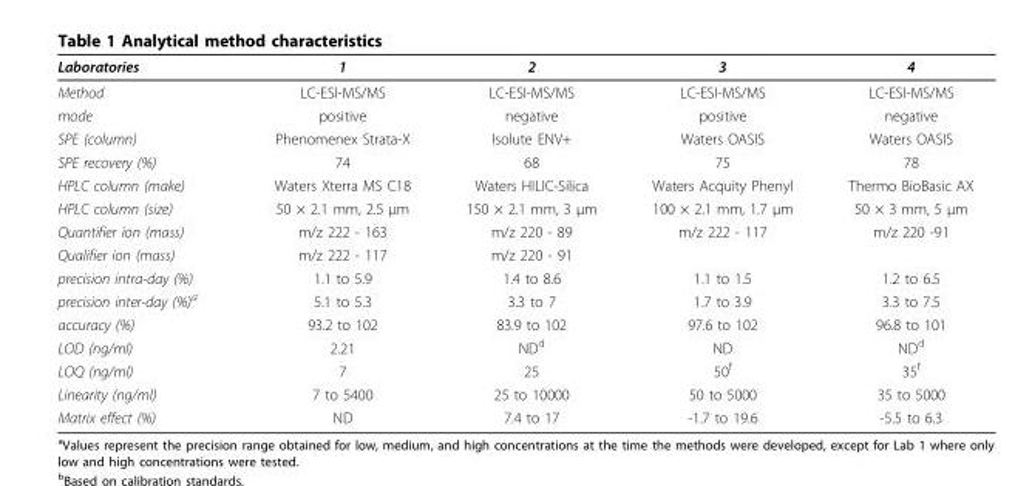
<table><thead><tr><td>Laboratories</td><td>1</td><td>2</td><td>3</td><td>4</td></tr></thead><tbody><tr><td>Method</td><td>LC-ESI-MS/MS</td><td>LC-ESI-MS/MS</td><td>LC-ESI-MS/MS</td><td>LC-ESI-MS/MS</td></tr><tr><td>mode</td><td>positive</td><td>negative</td><td>positive</td><td>negative</td></tr><tr><td>SPE (column)</td><td>Phenomenex Strata-X</td><td>Isolute ENV+</td><td>Waters OASIS</td><td>Waters OASIS</td></tr><tr><td>SPE recovery (%)</td><td>74</td><td>68</td><td>75</td><td>78</td></tr><tr><td>HPLC column (make)</td><td>Waters Xterra MS C18</td><td>Waters HILIC-Silica</td><td>Waters Acquity Phenyl</td><td>Thermo BioBasic AX</td></tr><tr><td>HPLC column (size)</td><td>50 × 2.1 mm, 2.5 μm</td><td>150 × 2.1 mm, 3 μm</td><td>100 × 2.1 mm, 1.7 μm</td><td>50 × 3 mm, 5 μm</td></tr><tr><td>Quantifier ion (mass)</td><td>m/z 222 - 163</td><td>m/z 220 - 89</td><td>m/z 222 - 117</td><td>m/z 220 -91</td></tr><tr><td>Qualifier ion (mass)</td><td>m/z 222 - 117</td><td>m/z 220 - 91</td><td></td><td></td></tr><tr><td>precision intra-day (%)</td><td>1.1 to 5.9</td><td>1.4 to 8.6</td><td>1.1 to 1.5</td><td>1.2 to 6.5</td></tr><tr><td>precision inter-day (%)<sup>a</sup></td><td>5.1 to 5.3</td><td>3.3 to 7</td><td>1.7 to 3.9</td><td>3.3 to 7.5</td></tr><tr><td>accuracy (%)</td><td>93.2 to 102</td><td>83.9 to 102</td><td>97.6 to 102</td><td>96.8 to 101</td></tr><tr><td>LOD (ng/ml)</td><td>2.21</td><td>ND<sup>d</sup></td><td>ND</td><td>ND<sup>d</sup></td></tr><tr><td>LOQ (ng/ml)</td><td>7</td><td>25</td><td>50<sup>f</sup></td><td>35<sup>f</sup></td></tr><tr><td>Linearity (ng/ml)</td><td>7 to 5400</td><td>25 to 10000</td><td>50 to 5000</td><td>35 to 5000</td></tr><tr><td>Matrix effect (%)</td><td>ND</td><td>7.4 to 17</td><td>-1.7 to 19.6</td><td>-5.5 to 6.3</td></tr></tbody></table>